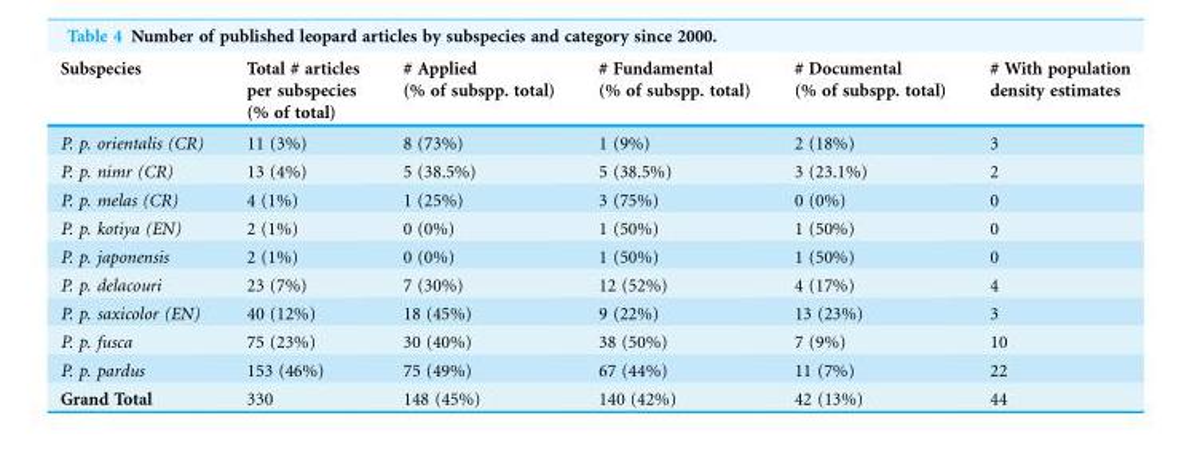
<table><thead><tr><td>Subspecies</td><td>Total # articles per subspecies (% of total)</td><td># Applied (% of subspp. total)</td><td># Fundamental (% of subspp. total)</td><td># Documental (% of subspp. total)</td><td># With population density estimates</td></tr></thead><tbody><tr><td>P. p. orientalis (CR)</td><td>11 (3%)</td><td>8 (73%)</td><td>1 (9%)</td><td>2 (18%)</td><td>3</td></tr><tr><td>P. p. nimr (CR)</td><td>13 (4%)</td><td>5 (38.5%)</td><td>5 (38.5%)</td><td>3 (23.1%)</td><td>2</td></tr><tr><td>P. p. melas (CR)</td><td>4 (1%)</td><td>1 (25%)</td><td>3 (75%)</td><td>0 (0%)</td><td>0</td></tr><tr><td>P. p. kotiya (EN)</td><td>2 (1%)</td><td>0 (0%)</td><td>1 (50%)</td><td>1 (50%)</td><td>0</td></tr><tr><td>P. p. japonensis</td><td>2 (1%)</td><td>0 (0%)</td><td>1 (50%)</td><td>1 (50%)</td><td>0</td></tr><tr><td>P. p. delacouri</td><td>23 (7%)</td><td>7 (30%)</td><td>12 (52%)</td><td>4 (17%)</td><td>4</td></tr><tr><td>P. p. saxicolor (EN)</td><td>40 (12%)</td><td>18 (45%)</td><td>9 (22%)</td><td>13 (23%)</td><td>3</td></tr><tr><td>P. p. fusca</td><td>75 (23%)</td><td>30 (40%)</td><td>38 (50%)</td><td>7 (9%)</td><td>10</td></tr><tr><td>P. p. pardus</td><td>153 (46%)</td><td>75 (49%)</td><td>67 (44%)</td><td>11 (7%)</td><td>22</td></tr><tr><td>Grand Total</td><td>330</td><td>148 (45%)</td><td>140 (42%)</td><td>42 (13%)</td><td>44</td></tr></tbody></table>